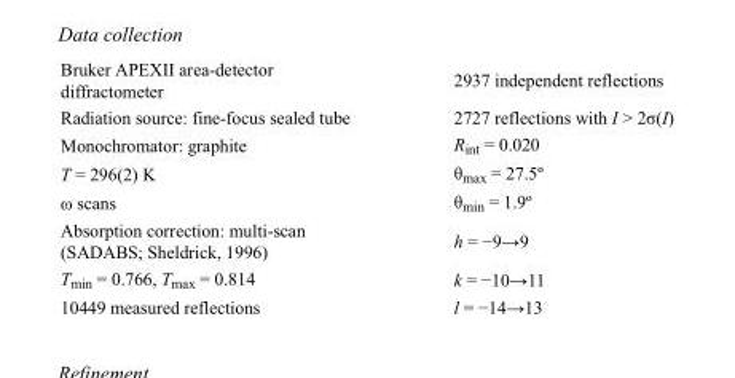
<table><tbody><tr><td>Bruker APEXII area-detector diffractometer</td><td>2937 independent reflections</td></tr><tr><td>Radiation source: fine-focus sealed tube</td><td>2727 reflections with I &gt; 2σ(I)</td></tr><tr><td>Monochromator: graphite</td><td>R<sub>int</sub> = 0.020</td></tr><tr><td>T = 296(2) K</td><td>θ<sub>max</sub> = 27.5º</td></tr><tr><td>ω scans</td><td>θ<sub>min</sub> = 1.9º</td></tr><tr><td>Absorption correction: multi-scan (SADABS; Sheldrick, 1996)</td><td>h = −9→9</td></tr><tr><td>T<sub>min</sub> = 0.766, T<sub>max</sub> = 0.814</td><td>k = −10→11</td></tr><tr><td>10449 measured reflections</td><td>l = −14→13</td></tr></tbody></table>